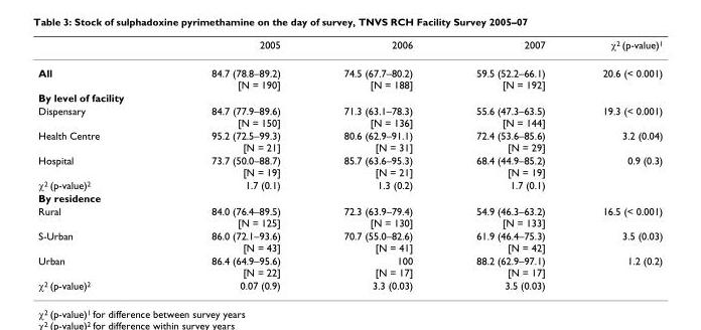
<table><thead><tr><td></td><td>2005</td><td>2006</td><td>2007</td><td>χ<sup>2</sup> (p-value)<sup>1</sup></td></tr></thead><tbody><tr><td>All</td><td>84.7 (78.8–89.2) [N = 190]</td><td>74.5 (67.7–80.2) [N = 188]</td><td>59.5 (52.2–66.1) [N = 192]</td><td>20.6 (&lt; 0.001)</td></tr><tr><td colspan="5">By level of facility</td></tr><tr><td>Dispensary</td><td>84.7 (77.9–89.6) [N = 150]</td><td>71.3 (63.1–78.3) [N = 136]</td><td>55.6 (47.3–63.5) [N = 144]</td><td>19.3 (&lt; 0.001)</td></tr><tr><td>Health Centre</td><td>95.2 (72.5–99.3) [N = 21]</td><td>80.6 (62.9–91.1) [N = 31]</td><td>72.4 (53.6–85.6) [N = 29]</td><td>3.2 (0.04)</td></tr><tr><td>Hospital</td><td>73.7 (50.0–88.7) [N = 19]</td><td>85.7 (63.6–95.3) [N = 21]</td><td>68.4 (44.9–85.2) [N = 19]</td><td>0.9 (0.3)</td></tr><tr><td>χ<sup>2</sup> (p-value)<sup>2</sup></td><td>1.7 (0.1)</td><td>1.3 (0.2)</td><td>1.7 (0.1)</td><td></td></tr><tr><td colspan="5">By residence</td></tr><tr><td>Rural</td><td>84.0 (76.4–89.5) [N = 125]</td><td>72.3 (63.9–79.4) [N = 130]</td><td>54.9 (46.3–63.2) [N = 133]</td><td>16.5 (&lt; 0.001)</td></tr><tr><td>S-Urban</td><td>86.0 (72.1–93.6) [N = 43]</td><td>70.7 (55.0–82.6) [N = 41]</td><td>61.9 (46.4–75.3) [N = 42]</td><td>3.5 (0.03)</td></tr><tr><td>Urban</td><td>86.4 (64.9–95.6) [N = 22]</td><td>100 [N = 17]</td><td>88.2 (62.9–97.1) [N = 17]</td><td>1.2 (0.2)</td></tr><tr><td>χ<sup>2</sup> (p-value)<sup>2</sup></td><td>0.07 (0.9)</td><td>3.3 (0.03)</td><td>3.5 (0.03)</td><td></td></tr></tbody></table>